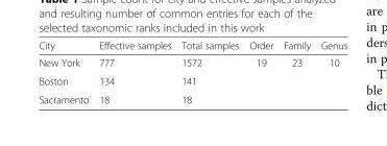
<table><thead><tr><td>City</td><td>Effective samples</td><td>Total samples</td><td>Order</td><td>Family</td><td>Genus</td></tr></thead><tbody><tr><td>New York</td><td>777</td><td>1572</td><td rowspan="3">19</td><td rowspan="3">23</td><td rowspan="3">10</td></tr><tr><td>Boston</td><td>134</td><td>141</td></tr><tr><td>Sacramento</td><td>18</td><td>18</td></tr></tbody></table>